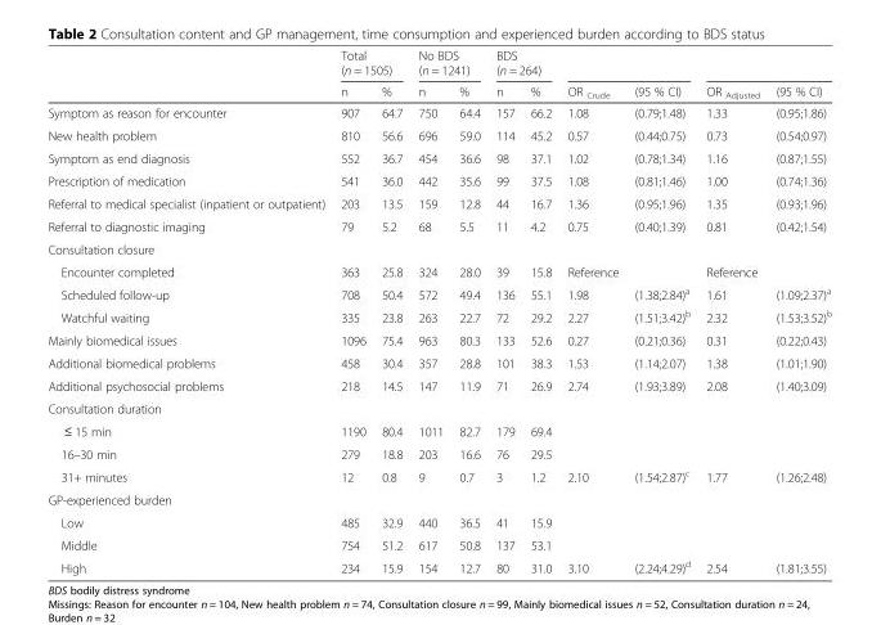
<table><thead><tr><td rowspan="2"></td><td colspan="2">Total (n = 1505)</td><td colspan="2">No BDS (n = 1241)</td><td colspan="2">BDS (n = 264)</td><td rowspan="2">OR <sub>Crude</sub></td><td rowspan="2">(95 % CI)</td><td rowspan="2">OR <sub>Adjusted</sub></td><td rowspan="2">(95 % CI)</td></tr><tr><td>n</td><td>%</td><td>n</td><td>%</td><td>n</td><td>%</td></tr></thead><tbody><tr><td>Symptom as reason for encounter</td><td>907</td><td>64.7</td><td>750</td><td>64.4</td><td>157</td><td>66.2</td><td>1.08</td><td>(0.79;1.48)</td><td>1.33</td><td>(0.95;1.86)</td></tr><tr><td>New health problem</td><td>810</td><td>56.6</td><td>696</td><td>59.0</td><td>114</td><td>45.2</td><td>0.57</td><td>(0.44;0.75)</td><td>0.73</td><td>(0.54;0.97)</td></tr><tr><td>Symptom as end diagnosis</td><td>552</td><td>36.7</td><td>454</td><td>36.6</td><td>98</td><td>37.1</td><td>1.02</td><td>(0.78;1.34)</td><td>1.16</td><td>(0.87;1.55)</td></tr><tr><td>Prescription of medication</td><td>541</td><td>36.0</td><td>442</td><td>35.6</td><td>99</td><td>37.5</td><td>1.08</td><td>(0.81;1.46)</td><td>1.00</td><td>(0.74;1.36)</td></tr><tr><td>Referral to medical specialist (inpatient or outpatient)</td><td>203</td><td>13.5</td><td>159</td><td>12.8</td><td>44</td><td>16.7</td><td>1.36</td><td>(0.95;1.96)</td><td>1.35</td><td>(0.93;1.96)</td></tr><tr><td>Referral to diagnostic imaging</td><td>79</td><td>5.2</td><td>68</td><td>5.5</td><td>11</td><td>4.2</td><td>0.75</td><td>(0.40;1.39)</td><td>0.81</td><td>(0.42;1.54)</td></tr><tr><td colspan="11">Consultation closure</td></tr><tr><td>Encounter completed</td><td>363</td><td>25.8</td><td>324</td><td>28.0</td><td>39</td><td>15.8</td><td>Reference</td><td></td><td>Reference</td><td></td></tr><tr><td>Scheduled follow-up</td><td>708</td><td>50.4</td><td>572</td><td>49.4</td><td>136</td><td>55.1</td><td>1.98</td><td>(1.38;2.84)<sup>a</sup></td><td>1.61</td><td>(1.09;2.37)<sup>a</sup></td></tr><tr><td>Watchful waiting</td><td>335</td><td>23.8</td><td>263</td><td>22.7</td><td>72</td><td>29.2</td><td>2.27</td><td>(1.51;3.42)<sup>b</sup></td><td>2.32</td><td>(1.53;3.52)<sup>b</sup></td></tr><tr><td>Mainly biomedical issues</td><td>1096</td><td>75.4</td><td>963</td><td>80.3</td><td>133</td><td>52.6</td><td>0.27</td><td>(0.21;0.36)</td><td>0.31</td><td>(0.22;0.43)</td></tr><tr><td>Additional biomedical problems</td><td>458</td><td>30.4</td><td>357</td><td>28.8</td><td>101</td><td>38.3</td><td>1.53</td><td>(1.14;2.07)</td><td>1.38</td><td>(1.01;1.90)</td></tr><tr><td>Additional psychosocial problems</td><td>218</td><td>14.5</td><td>147</td><td>11.9</td><td>71</td><td>26.9</td><td>2.74</td><td>(1.93;3.89)</td><td>2.08</td><td>(1.40;3.09)</td></tr><tr><td colspan="11">Consultation duration</td></tr><tr><td>≤ 15 min</td><td>1190</td><td>80.4</td><td>1011</td><td>82.7</td><td>179</td><td>69.4</td><td></td><td></td><td></td><td></td></tr><tr><td>16–30 min</td><td>279</td><td>18.8</td><td>203</td><td>16.6</td><td>76</td><td>29.5</td><td></td><td></td><td></td><td></td></tr><tr><td>31+ minutes</td><td>12</td><td>0.8</td><td>9</td><td>0.7</td><td>3</td><td>1.2</td><td>2.10</td><td>(1.54;2.87)<sup>c</sup></td><td>1.77</td><td>(1.26;2.48)</td></tr><tr><td colspan="11">GP-experienced burden</td></tr><tr><td>Low</td><td>485</td><td>32.9</td><td>440</td><td>36.5</td><td>41</td><td>15.9</td><td></td><td></td><td></td><td></td></tr><tr><td>Middle</td><td>754</td><td>51.2</td><td>617</td><td>50.8</td><td>137</td><td>53.1</td><td></td><td></td><td></td><td></td></tr><tr><td>High</td><td>234</td><td>15.9</td><td>154</td><td>12.7</td><td>80</td><td>31.0</td><td>3.10</td><td>(2.24;4.29)<sup>d</sup></td><td>2.54</td><td>(1.81;3.55)</td></tr></tbody></table>